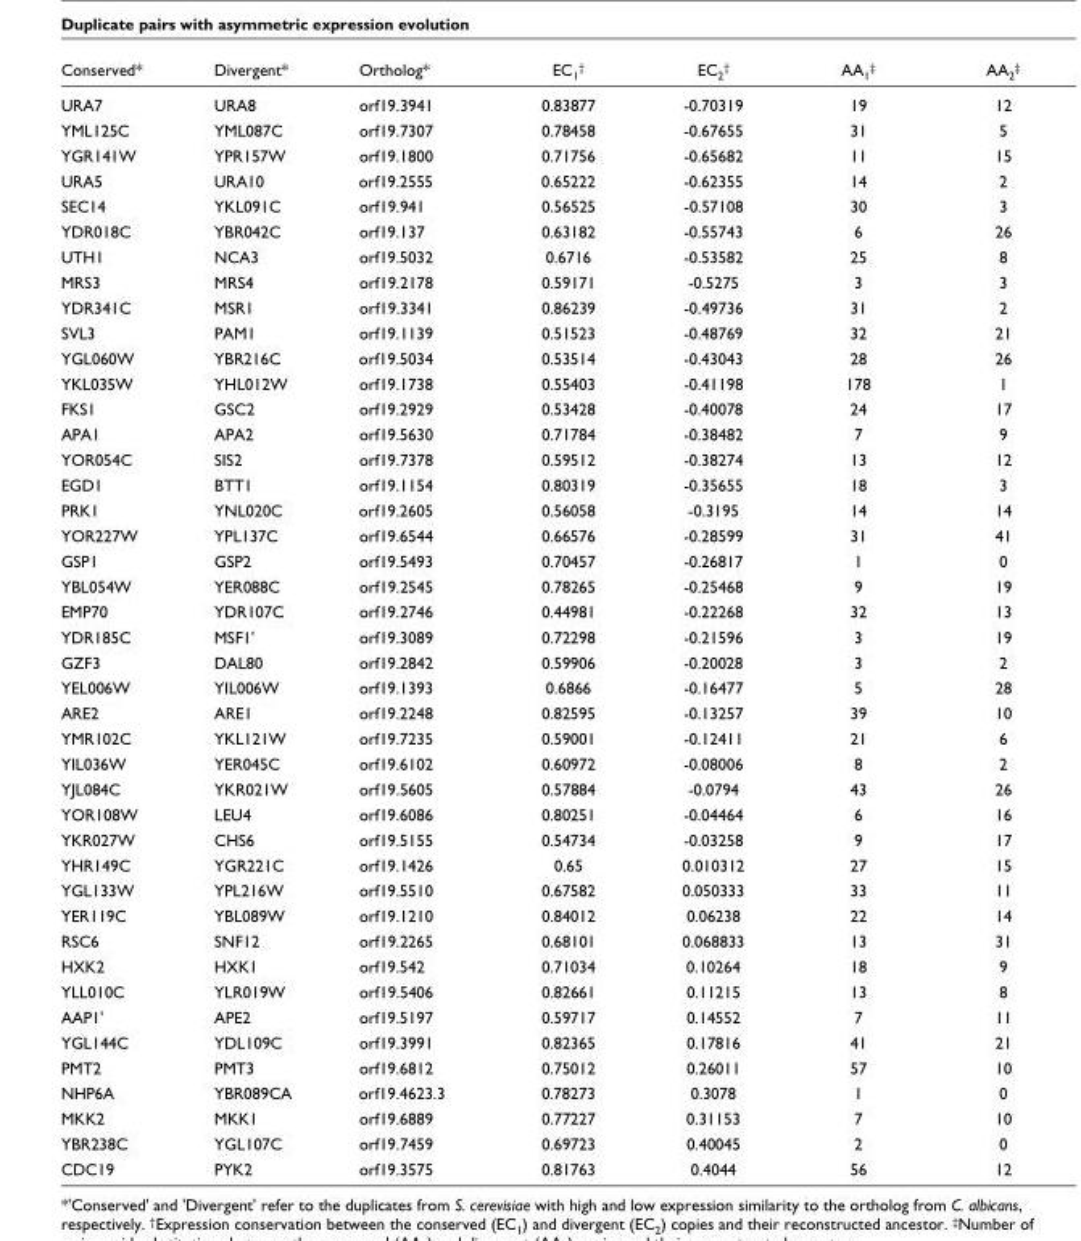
<table><thead><tr><td>Conserved*</td><td>Divergent*</td><td>Ortholog*</td><td>EC1†</td><td>EC2†</td><td>AA1‡</td><td>AA2‡</td></tr></thead><tbody><tr><td>URA7</td><td>URA8</td><td>orf19.3941</td><td>0.83877</td><td>-0.70319</td><td>19</td><td>12</td></tr><tr><td>YML125C</td><td>YML087C</td><td>orf19.7307</td><td>0.78458</td><td>-0.67655</td><td>31</td><td>5</td></tr><tr><td>YGR141W</td><td>YPR157W</td><td>orf19.1800</td><td>0.71756</td><td>-0.65682</td><td>11</td><td>15</td></tr><tr><td>URA5</td><td>URA10</td><td>orf19.2555</td><td>0.65222</td><td>-0.62355</td><td>14</td><td>2</td></tr><tr><td>SEC14</td><td>YKL091C</td><td>orf19.941</td><td>0.56525</td><td>-0.57108</td><td>30</td><td>3</td></tr><tr><td>YDR018C</td><td>YBR042C</td><td>orf19.137</td><td>0.63182</td><td>-0.55743</td><td>6</td><td>26</td></tr><tr><td>UTH1</td><td>NCA3</td><td>orf19.5032</td><td>0.6716</td><td>-0.53582</td><td>25</td><td>8</td></tr><tr><td>MRS3</td><td>MRS4</td><td>orf19.2178</td><td>0.59171</td><td>-0.5275</td><td>3</td><td>3</td></tr><tr><td>YDR341C</td><td>MSR1</td><td>orf19.3341</td><td>0.86239</td><td>-0.49736</td><td>31</td><td>2</td></tr><tr><td>SVL3</td><td>PAM1</td><td>orf19.1139</td><td>0.51523</td><td>-0.48769</td><td>32</td><td>21</td></tr><tr><td>YGL060W</td><td>YBR216C</td><td>orf19.5034</td><td>0.53514</td><td>-0.43043</td><td>28</td><td>26</td></tr><tr><td>YKL035W</td><td>YHL012W</td><td>orf19.1738</td><td>0.55403</td><td>-0.41198</td><td>178</td><td>1</td></tr><tr><td>FKS1</td><td>GSC2</td><td>orf19.2929</td><td>0.53428</td><td>-0.40078</td><td>24</td><td>17</td></tr><tr><td>APA1</td><td>APA2</td><td>orf19.5630</td><td>0.71784</td><td>-0.38482</td><td>7</td><td>9</td></tr><tr><td>YOR054C</td><td>SIS2</td><td>orf19.7378</td><td>0.59512</td><td>-0.38274</td><td>13</td><td>12</td></tr><tr><td>EGD1</td><td>BTT1</td><td>orf19.1154</td><td>0.80319</td><td>-0.35655</td><td>18</td><td>3</td></tr><tr><td>PRK1</td><td>YNL020C</td><td>orf19.2605</td><td>0.56058</td><td>-0.3195</td><td>14</td><td>14</td></tr><tr><td>YOR227W</td><td>YPL137C</td><td>orf19.6544</td><td>0.66576</td><td>-0.28599</td><td>31</td><td>41</td></tr><tr><td>GSP1</td><td>GSP2</td><td>orf19.5493</td><td>0.70457</td><td>-0.26817</td><td>1</td><td>0</td></tr><tr><td>YBL054W</td><td>YER088C</td><td>orf19.2545</td><td>0.78265</td><td>-0.25468</td><td>9</td><td>19</td></tr><tr><td>EMP70</td><td>YDR107C</td><td>orf19.2746</td><td>0.44981</td><td>-0.22268</td><td>32</td><td>13</td></tr><tr><td>YDR185C</td><td>MSF1&#x27;</td><td>orf19.3089</td><td>0.72298</td><td>-0.21596</td><td>3</td><td>19</td></tr><tr><td>GZF3</td><td>DAL80</td><td>orf19.2842</td><td>0.59906</td><td>-0.20028</td><td>3</td><td>2</td></tr><tr><td>YEL006W</td><td>YIL006W</td><td>orf19.1393</td><td>0.6866</td><td>-0.16477</td><td>5</td><td>28</td></tr><tr><td>ARE2</td><td>ARE1</td><td>orf19.2248</td><td>0.82595</td><td>-0.13257</td><td>39</td><td>10</td></tr><tr><td>YMR102C</td><td>YKL121W</td><td>orf19.7235</td><td>0.59001</td><td>-0.12411</td><td>21</td><td>6</td></tr><tr><td>YIL036W</td><td>YER045C</td><td>orf19.6102</td><td>0.60972</td><td>-0.08006</td><td>8</td><td>2</td></tr><tr><td>YJL084C</td><td>YKR021W</td><td>orf19.5605</td><td>0.57884</td><td>-0.0794</td><td>43</td><td>26</td></tr><tr><td>YOR108W</td><td>LEU4</td><td>orf19.6086</td><td>0.80251</td><td>-0.04464</td><td>6</td><td>16</td></tr><tr><td>YKR027W</td><td>CHS6</td><td>orf19.5155</td><td>0.54734</td><td>-0.03258</td><td>9</td><td>17</td></tr><tr><td>YHR149C</td><td>YGR221C</td><td>orf19.1426</td><td>0.65</td><td>0.010312</td><td>27</td><td>15</td></tr><tr><td>YGL133W</td><td>YPL216W</td><td>orf19.5510</td><td>0.67582</td><td>0.050333</td><td>33</td><td>11</td></tr><tr><td>YER119C</td><td>YBL089W</td><td>orf19.1210</td><td>0.84012</td><td>0.06238</td><td>22</td><td>14</td></tr><tr><td>RSC6</td><td>SNF12</td><td>orf19.2265</td><td>0.68101</td><td>0.068833</td><td>13</td><td>31</td></tr><tr><td>HXK2</td><td>HXK1</td><td>orf19.542</td><td>0.71034</td><td>0.10264</td><td>18</td><td>9</td></tr><tr><td>YLL010C</td><td>YLR019W</td><td>orf19.5406</td><td>0.82661</td><td>0.11215</td><td>13</td><td>8</td></tr><tr><td>AAP1&#x27;</td><td>APE2</td><td>orf19.5197</td><td>0.59717</td><td>0.14552</td><td>7</td><td>11</td></tr><tr><td>YGL144C</td><td>YDL109C</td><td>orf19.3991</td><td>0.82365</td><td>0.17816</td><td>41</td><td>21</td></tr><tr><td>PMT2</td><td>PMT3</td><td>orf19.6812</td><td>0.75012</td><td>0.26011</td><td>57</td><td>10</td></tr><tr><td>NHP6A</td><td>YBR089CA</td><td>orf19.4623.3</td><td>0.78273</td><td>0.3078</td><td>1</td><td>0</td></tr><tr><td>MKK2</td><td>MKK1</td><td>orf19.6889</td><td>0.77227</td><td>0.31153</td><td>7</td><td>10</td></tr><tr><td>YBR238C</td><td>YGL107C</td><td>orf19.7459</td><td>0.69723</td><td>0.40045</td><td>2</td><td>0</td></tr><tr><td>CDC19</td><td>PYK2</td><td>orf19.3575</td><td>0.81763</td><td>0.4044</td><td>56</td><td>12</td></tr></tbody></table>